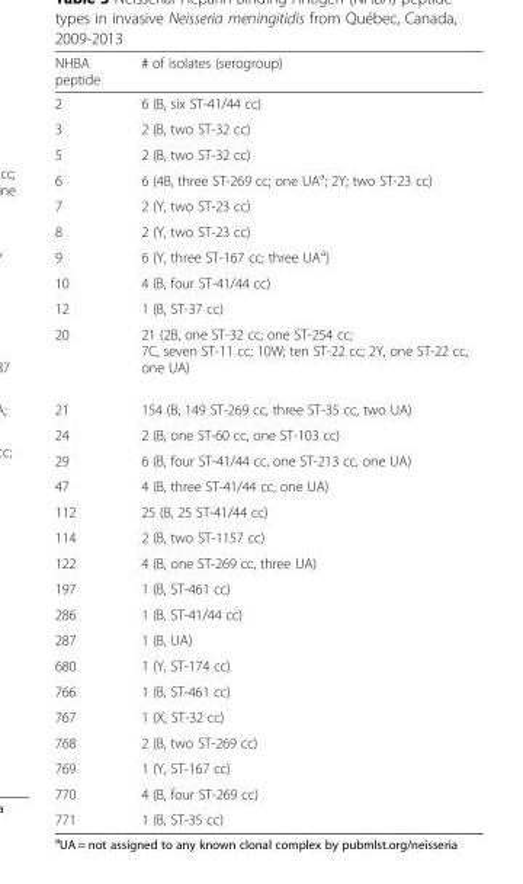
<table><thead><tr><td>NHBA peptide</td><td># of isolates (serogroup)</td></tr></thead><tbody><tr><td>2</td><td>6 (B, six ST-41/44 cc)</td></tr><tr><td>3</td><td>2 (B, two ST-32 cc)</td></tr><tr><td>5</td><td>2 (B, two ST-32 cc)</td></tr><tr><td>6</td><td>6 (4B, three ST-269 cc; one UA<sup>a</sup>; 2Y; two ST-23 cc)</td></tr><tr><td>7</td><td>2 (Y, two ST-23 cc)</td></tr><tr><td>8</td><td>2 (Y, two ST-23 cc)</td></tr><tr><td>9</td><td>6 (Y, three ST-167 cc; three UA<sup>a</sup>)</td></tr><tr><td>10</td><td>4 (B, four ST-41/44 cc)</td></tr><tr><td>12</td><td>1 (B, ST-37 cc)</td></tr><tr><td>20</td><td>21 (2B, one ST-32 cc; one ST-254 cc; 7C, seven ST-11 cc; 10W; ten ST-22 cc; 2Y, one ST-22 cc, one UA)</td></tr><tr><td>21</td><td>154 (B, 149 ST-269 cc, three ST-35 cc, two UA)</td></tr><tr><td>24</td><td>2 (B, one ST-60 cc, one ST-103 cc)</td></tr><tr><td>29</td><td>6 (B, four ST-41/44 cc, one ST-213 cc, one UA)</td></tr><tr><td>47</td><td>4 (B, three ST-41/44 cc, one UA)</td></tr><tr><td>112</td><td>25 (B, 25 ST-41/44 cc)</td></tr><tr><td>114</td><td>2 (B, two ST-1157 cc)</td></tr><tr><td>122</td><td>4 (B, one ST-269 cc, three UA)</td></tr><tr><td>197</td><td>1 (B, ST-461 cc)</td></tr><tr><td>286</td><td>1 (B, ST-41/44 cc)</td></tr><tr><td>287</td><td>1 (B, UA)</td></tr><tr><td>680</td><td>1 (Y, ST-174 cc)</td></tr><tr><td>766</td><td>1 (B, ST-461 cc)</td></tr><tr><td>767</td><td>1 (X, ST-32 cc)</td></tr><tr><td>768</td><td>2 (B, two ST-269 cc)</td></tr><tr><td>769</td><td>1 (Y, ST-167 cc)</td></tr><tr><td>770</td><td>4 (B, four ST-269 cc)</td></tr><tr><td>771</td><td>1 (B, ST-35 cc)</td></tr></tbody></table>